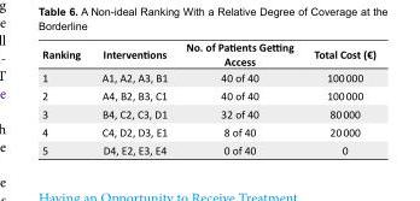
<table><tbody><tr><td>Ranking</td><td>Interventions</td><td>No. of Patients Getting Access</td><td>Total Cost (€)</td></tr><tr><td>1</td><td>A1, A2, A3, B1</td><td>40 of 40</td><td>100 000</td></tr><tr><td>2</td><td>A4, B2, B3, C1</td><td>40 of 40</td><td>100 000</td></tr><tr><td>3</td><td>B4, C2, C3, D1</td><td>32 of 40</td><td>80 000</td></tr><tr><td>4</td><td>C4, D2, D3, E1</td><td>8 of 40</td><td>20 000</td></tr><tr><td>5</td><td>D4, E2, E3, E4</td><td>0 of 40</td><td>0</td></tr></tbody></table>